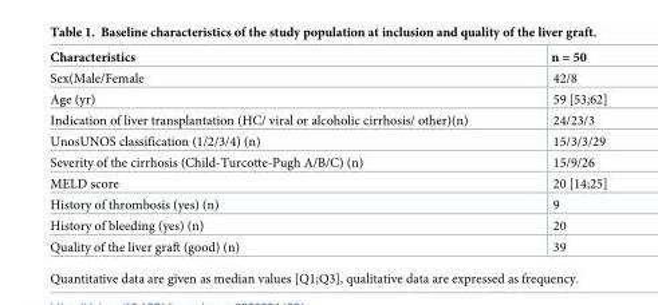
<table><thead><tr><td>Characteristics</td><td>n = 50</td></tr></thead><tbody><tr><td>Sex(Male/Female</td><td>42/8</td></tr><tr><td>Age (yr)</td><td>59 [53;62]</td></tr><tr><td>Indication of liver transplantation (HC/ viral or alcoholic cirrhosis/ other)(n)</td><td>24/23/3</td></tr><tr><td>UnosUNOS classification (1/2/3/4) (n)</td><td>15/3/3/29</td></tr><tr><td>Severity of the cirrhosis (Child-Turcotte-Pugh A/B/C) (n)</td><td>15/9/26</td></tr><tr><td>MELD score</td><td>20 [14;25]</td></tr><tr><td>History of thrombosis (yes) (n)</td><td>9</td></tr><tr><td>History of bleeding (yes) (n)</td><td>20</td></tr><tr><td>Quality of the liver graft (good) (n)</td><td>39</td></tr></tbody></table>